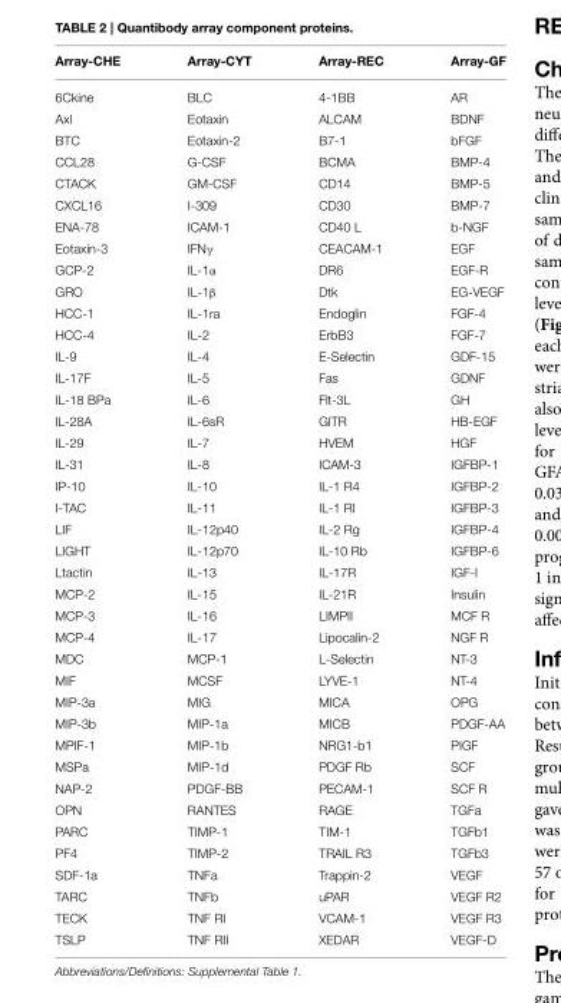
<table><thead><tr><td>Array-CHE</td><td>Array-CYT</td><td>Array-REC</td><td>Array-GF</td></tr></thead><tbody><tr><td>6Ckine</td><td>BLC</td><td>4-1BB</td><td>AR</td></tr><tr><td>Axl</td><td>Eotaxin</td><td>ALCAM</td><td>BDNF</td></tr><tr><td>BTC</td><td>Eotaxin-2</td><td>B7-1</td><td>bFGF</td></tr><tr><td>CCL28</td><td>G-CSF</td><td>BCMA</td><td>BMP-4</td></tr><tr><td>CTACK</td><td>GM-CSF</td><td>CD14</td><td>BMP-5</td></tr><tr><td>CXCL16</td><td>I-309</td><td>CD30</td><td>BMP-7</td></tr><tr><td>ENA-78</td><td>ICAM-1</td><td>CD40 L</td><td>b-NGF</td></tr><tr><td>Eotaxin-3</td><td>IFNγ</td><td>CEACAM-1</td><td>EGF</td></tr><tr><td>GCP-2</td><td>IL-1α</td><td>DR6</td><td>EGF-R</td></tr><tr><td>GRO</td><td>IL-1β</td><td>Dtk</td><td>EG-VEGF</td></tr><tr><td>HCC-1</td><td>IL-1ra</td><td>Endoglin</td><td>FGF-4</td></tr><tr><td>HCC-4</td><td>IL-2</td><td>ErbB3</td><td>FGF-7</td></tr><tr><td>IL-9</td><td>IL-4</td><td>E-Selectin</td><td>GDF-15</td></tr><tr><td>IL-17F</td><td>IL-5</td><td>Fas</td><td>GDNF</td></tr><tr><td>IL-18 BPa</td><td>IL-6</td><td>Flt-3L</td><td>GH</td></tr><tr><td>IL-28A</td><td>IL-6sR</td><td>GITR</td><td>HB-EGF</td></tr><tr><td>IL-29</td><td>IL-7</td><td>HVEM</td><td>HGF</td></tr><tr><td>IL-31</td><td>IL-8</td><td>ICAM-3</td><td>IGFBP-1</td></tr><tr><td>IP-10</td><td>IL-10</td><td>IL-1 R4</td><td>IGFBP-2</td></tr><tr><td>I-TAC</td><td>IL-11</td><td>IL-1 RI</td><td>IGFBP-3</td></tr><tr><td>LIF</td><td>IL-12p40</td><td>IL-2 Rg</td><td>IGFBP-4</td></tr><tr><td>LIGHT</td><td>IL-12p70</td><td>IL-10 Rb</td><td>IGFBP-6</td></tr><tr><td>Ltactin</td><td>IL-13</td><td>IL-17R</td><td>IGF-I</td></tr><tr><td>MCP-2</td><td>IL-15</td><td>IL-21R</td><td>Insulin</td></tr><tr><td>MCP-3</td><td>IL-16</td><td>LIMPII</td><td>MCF R</td></tr><tr><td>MCP-4</td><td>IL-17</td><td>Lipocalin-2</td><td>NGF R</td></tr><tr><td>MDC</td><td>MCP-1</td><td>L-Selectin</td><td>NT-3</td></tr><tr><td>MIF</td><td>MCSF</td><td>LYVE-1</td><td>NT-4</td></tr><tr><td>MIP-3a</td><td>MIG</td><td>MICA</td><td>OPG</td></tr><tr><td>MIP-3b</td><td>MIP-1a</td><td>MICB</td><td>PDGF-AA</td></tr><tr><td>MPIF-1</td><td>MIP-1b</td><td>NRG1-b1</td><td>PIGF</td></tr><tr><td>MSPa</td><td>MIP-1d</td><td>PDGF Rb</td><td>SCF</td></tr><tr><td>NAP-2</td><td>PDGF-BB</td><td>PECAM-1</td><td>SCF R</td></tr><tr><td>OPN</td><td>RANTES</td><td>RAGE</td><td>TGFa</td></tr><tr><td>PARC</td><td>TIMP-1</td><td>TIM-1</td><td>TGFb1</td></tr><tr><td>PF4</td><td>TIMP-2</td><td>TRAIL R3</td><td>TGFb3</td></tr><tr><td>SDF-1a</td><td>TNFa</td><td>Trappin-2</td><td>VEGF</td></tr><tr><td>TARC</td><td>TNFb</td><td>uPAR</td><td>VEGF R2</td></tr><tr><td>TECK</td><td>TNF RI</td><td>VCAM-1</td><td>VEGF R3</td></tr><tr><td>TSLP</td><td>TNF RII</td><td>XEDAR</td><td>VEGF-D</td></tr></tbody></table>